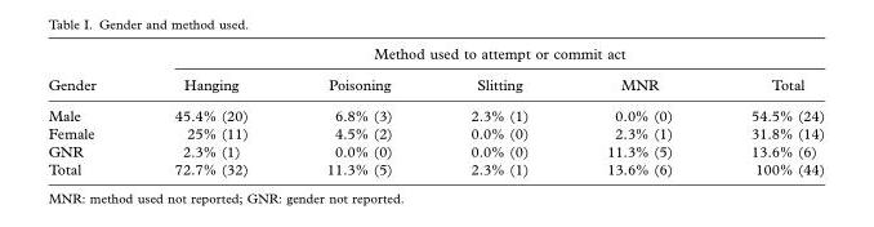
<table><thead><tr><td rowspan="2">Gender</td><td colspan="5">Method used to attempt or commit act</td></tr><tr><td>Hanging</td><td>Poisoning</td><td>Slitting</td><td>MNR</td><td>Total</td></tr></thead><tbody><tr><td>Male</td><td>45.4% (20)</td><td>6.8% (3)</td><td>2.3% (1)</td><td>0.0% (0)</td><td>54.5% (24)</td></tr><tr><td>Female</td><td>25% (11)</td><td>4.5% (2)</td><td>0.0% (0)</td><td>2.3% (1)</td><td>31.8% (14)</td></tr><tr><td>GNR</td><td>2.3% (1)</td><td>0.0% (0)</td><td>0.0% (0)</td><td>11.3% (5)</td><td>13.6% (6)</td></tr><tr><td>Total</td><td>72.7% (32)</td><td>11.3% (5)</td><td>2.3% (1)</td><td>13.6% (6)</td><td>100% (44)</td></tr></tbody></table>